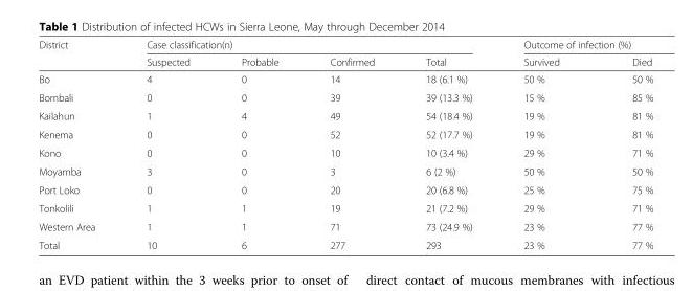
<table><thead><tr><td rowspan="2">District</td><td colspan="4">Case classification(n)</td><td colspan="2">Outcome of infection (%)</td></tr><tr><td>Suspected</td><td>Probable</td><td>Confirmed</td><td>Total</td><td>Survived</td><td>Died</td></tr></thead><tbody><tr><td>Bo</td><td>4</td><td>0</td><td>14</td><td>18 (6.1 %)</td><td>50 %</td><td>50 %</td></tr><tr><td>Bombali</td><td>0</td><td>0</td><td>39</td><td>39 (13.3 %)</td><td>15 %</td><td>85 %</td></tr><tr><td>Kailahun</td><td>1</td><td>4</td><td>49</td><td>54 (18.4 %)</td><td>19 %</td><td>81 %</td></tr><tr><td>Kenema</td><td>0</td><td>0</td><td>52</td><td>52 (17.7 %)</td><td>19 %</td><td>81 %</td></tr><tr><td>Kono</td><td>0</td><td>0</td><td>10</td><td>10 (3.4 %)</td><td>29 %</td><td>71 %</td></tr><tr><td>Moyamba</td><td>3</td><td>0</td><td>3</td><td>6 (2 %)</td><td>50 %</td><td>50 %</td></tr><tr><td>Port Loko</td><td>0</td><td>0</td><td>20</td><td>20 (6.8 %)</td><td>25 %</td><td>75 %</td></tr><tr><td>Tonkolili</td><td>1</td><td>1</td><td>19</td><td>21 (7.2 %)</td><td>29 %</td><td>71 %</td></tr><tr><td>Western Area</td><td>1</td><td>1</td><td>71</td><td>73 (24.9 %)</td><td>23 %</td><td>77 %</td></tr><tr><td>Total</td><td>10</td><td>6</td><td>277</td><td>293</td><td>23 %</td><td>77 %</td></tr></tbody></table>